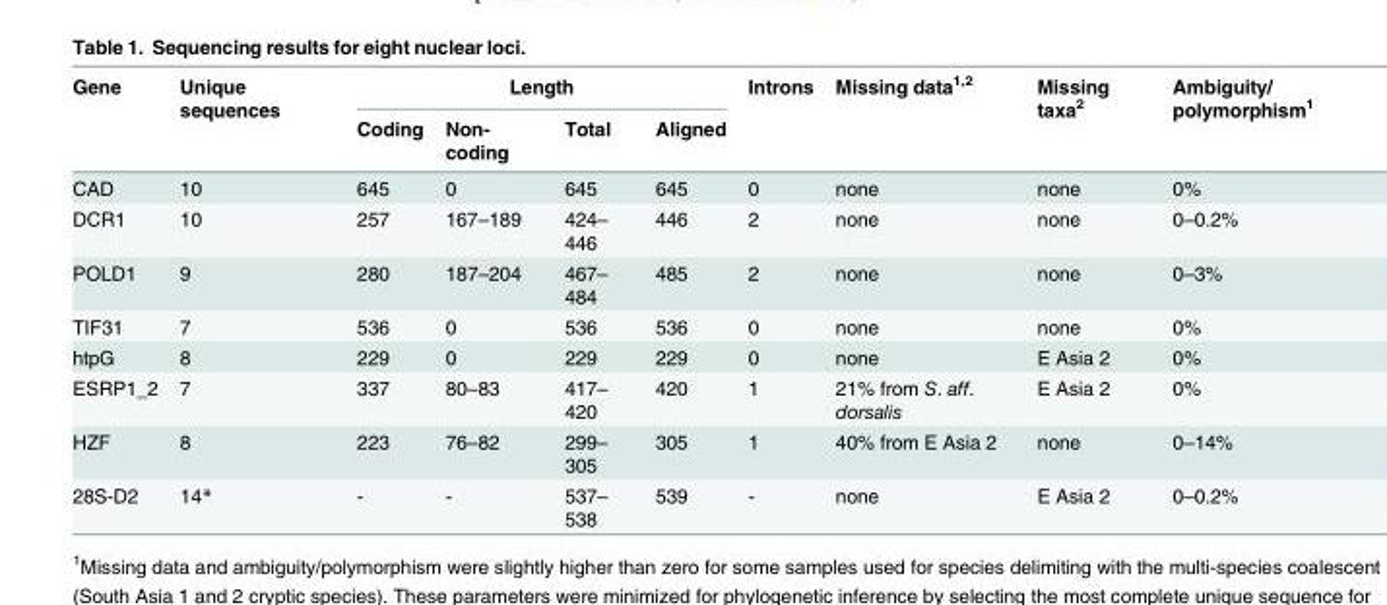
<table><thead><tr><td rowspan="2">Gene</td><td rowspan="2">Unique sequences</td><td colspan="4">Length</td><td rowspan="2">Introns</td><td rowspan="2">Missing data<sup>1,2</sup></td><td rowspan="2">Missing taxa<sup>2</sup></td><td rowspan="2">Ambiguity/ polymorphism<sup>1</sup></td></tr><tr><td>Coding</td><td>Non- coding</td><td>Total</td><td>Aligned</td></tr></thead><tbody><tr><td>CAD</td><td>10</td><td>645</td><td>0</td><td>645</td><td>645</td><td>0</td><td>none</td><td>none</td><td>0%</td></tr><tr><td>DCR1</td><td>10</td><td>257</td><td>167–189</td><td>424– 446</td><td>446</td><td>2</td><td>none</td><td>none</td><td>0–0.2%</td></tr><tr><td>POLD1</td><td>9</td><td>280</td><td>187–204</td><td>467– 484</td><td>485</td><td>2</td><td>none</td><td>none</td><td>0–3%</td></tr><tr><td>TIF31</td><td>7</td><td>536</td><td>0</td><td>536</td><td>536</td><td>0</td><td>none</td><td>none</td><td>0%</td></tr><tr><td>htpG</td><td>8</td><td>229</td><td>0</td><td>229</td><td>229</td><td>0</td><td>none</td><td>E Asia 2</td><td>0%</td></tr><tr><td>ESRP1_2</td><td>7</td><td>337</td><td>80–83</td><td>417– 420</td><td>420</td><td>1</td><td>21% from S. aff. dorsalis</td><td>E Asia 2</td><td>0%</td></tr><tr><td>HZF</td><td>8</td><td>223</td><td>76–82</td><td>299– 305</td><td>305</td><td>1</td><td>40% from E Asia 2</td><td>none</td><td>0–14%</td></tr><tr><td>28S-D2</td><td>14*</td><td>-</td><td>-</td><td>537– 538</td><td>539</td><td>-</td><td>none</td><td>E Asia 2</td><td>0–0.2%</td></tr></tbody></table>